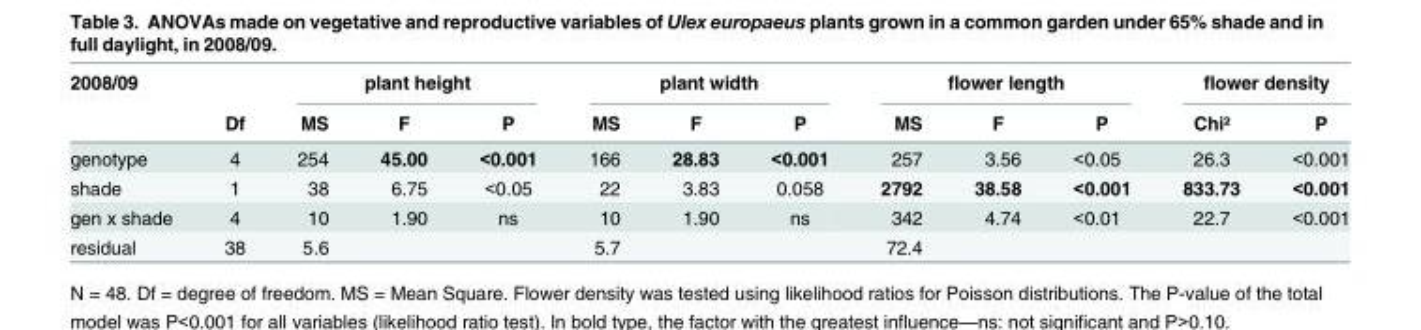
<table><thead><tr><td rowspan="2">2008/09</td><td rowspan="2">Df</td><td colspan="3">plant height</td><td colspan="3">plant width</td><td colspan="3">flower length</td><td colspan="2">flower density</td></tr><tr><td>MS</td><td>F</td><td>P</td><td>MS</td><td>F</td><td>P</td><td>MS</td><td>F</td><td>P</td><td>Chi²</td><td>P</td></tr></thead><tbody><tr><td>genotype</td><td>4</td><td>254</td><td>45.00</td><td>&lt;0.001</td><td>166</td><td>28.83</td><td>&lt;0.001</td><td>257</td><td>3.56</td><td>&lt;0.05</td><td>26.3</td><td>&lt;0.001</td></tr><tr><td>shade</td><td>1</td><td>38</td><td>6.75</td><td>&lt;0.05</td><td>22</td><td>3.83</td><td>0.058</td><td>2792</td><td>38.58</td><td>&lt;0.001</td><td>833.73</td><td>&lt;0.001</td></tr><tr><td>gen x shade</td><td>4</td><td>10</td><td>1.90</td><td>ns</td><td>10</td><td>1.90</td><td>ns</td><td>342</td><td>4.74</td><td>&lt;0.01</td><td>22.7</td><td>&lt;0.001</td></tr><tr><td>residual</td><td>38</td><td>5.6</td><td></td><td></td><td>5.7</td><td></td><td></td><td>72.4</td><td></td><td></td><td></td><td></td></tr></tbody></table>